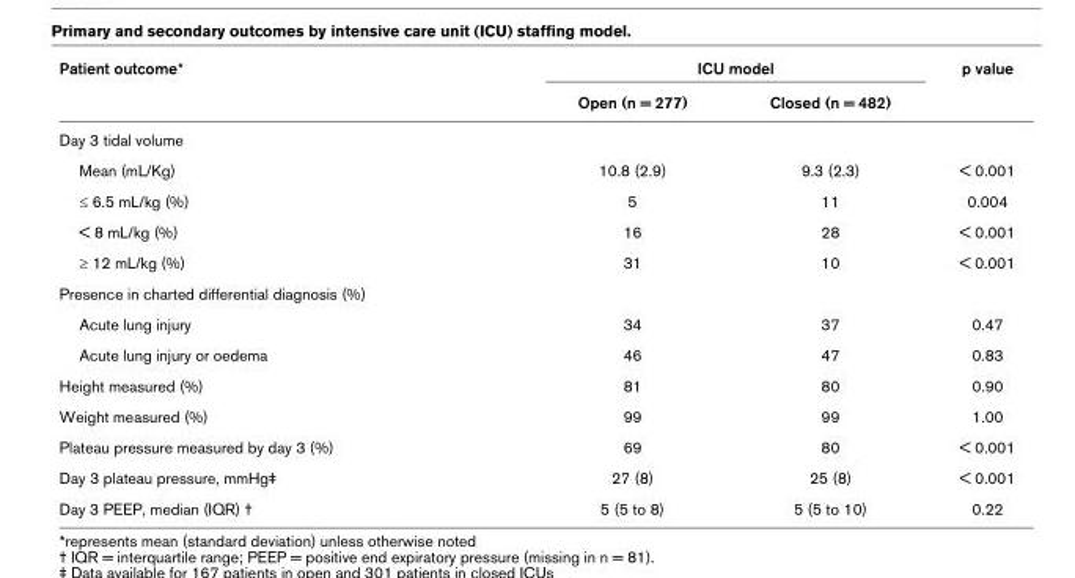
<table><thead><tr><td rowspan="2">Patient outcome*</td><td colspan="2">ICU model</td><td rowspan="2">p value</td></tr><tr><td>Open (n = 277)</td><td>Closed (n = 482)</td></tr></thead><tbody><tr><td colspan="4">Day 3 tidal volume</td></tr><tr><td>Mean (mL/Kg)</td><td>10.8 (2.9)</td><td>9.3 (2.3)</td><td>&lt; 0.001</td></tr><tr><td>≤ 6.5 mL/kg (%)</td><td>5</td><td>11</td><td>0.004</td></tr><tr><td>&lt; 8 mL/kg (%)</td><td>16</td><td>28</td><td>&lt; 0.001</td></tr><tr><td>≥ 12 mL/kg (%)</td><td>31</td><td>10</td><td>&lt; 0.001</td></tr><tr><td colspan="4">Presence in charted differential diagnosis (%)</td></tr><tr><td>Acute lung injury</td><td>34</td><td>37</td><td>0.47</td></tr><tr><td>Acute lung injury or oedema</td><td>46</td><td>47</td><td>0.83</td></tr><tr><td>Height measured (%)</td><td>81</td><td>80</td><td>0.90</td></tr><tr><td>Weight measured (%)</td><td>99</td><td>99</td><td>1.00</td></tr><tr><td>Plateau pressure measured by day 3 (%)</td><td>69</td><td>80</td><td>&lt; 0.001</td></tr><tr><td>Day 3 plateau pressure, mmHg‡</td><td>27 (8)</td><td>25 (8)</td><td>&lt; 0.001</td></tr><tr><td>Day 3 PEEP, median (IQR) †</td><td>5 (5 to 8)</td><td>5 (5 to 10)</td><td>0.22</td></tr></tbody></table>